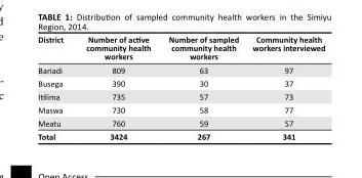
<table><thead><tr><td>District</td><td>Number of active community health workers</td><td>Number of sampled community health workers</td><td>Community health workers interviewed</td></tr></thead><tbody><tr><td>Bariadi</td><td>809</td><td>63</td><td>97</td></tr><tr><td>Busega</td><td>390</td><td>30</td><td>37</td></tr><tr><td>Itilima</td><td>735</td><td>57</td><td>73</td></tr><tr><td>Maswa</td><td>730</td><td>58</td><td>77</td></tr><tr><td>Meatu</td><td>760</td><td>59</td><td>57</td></tr><tr><td>Total</td><td>3424</td><td>267</td><td>341</td></tr></tbody></table>